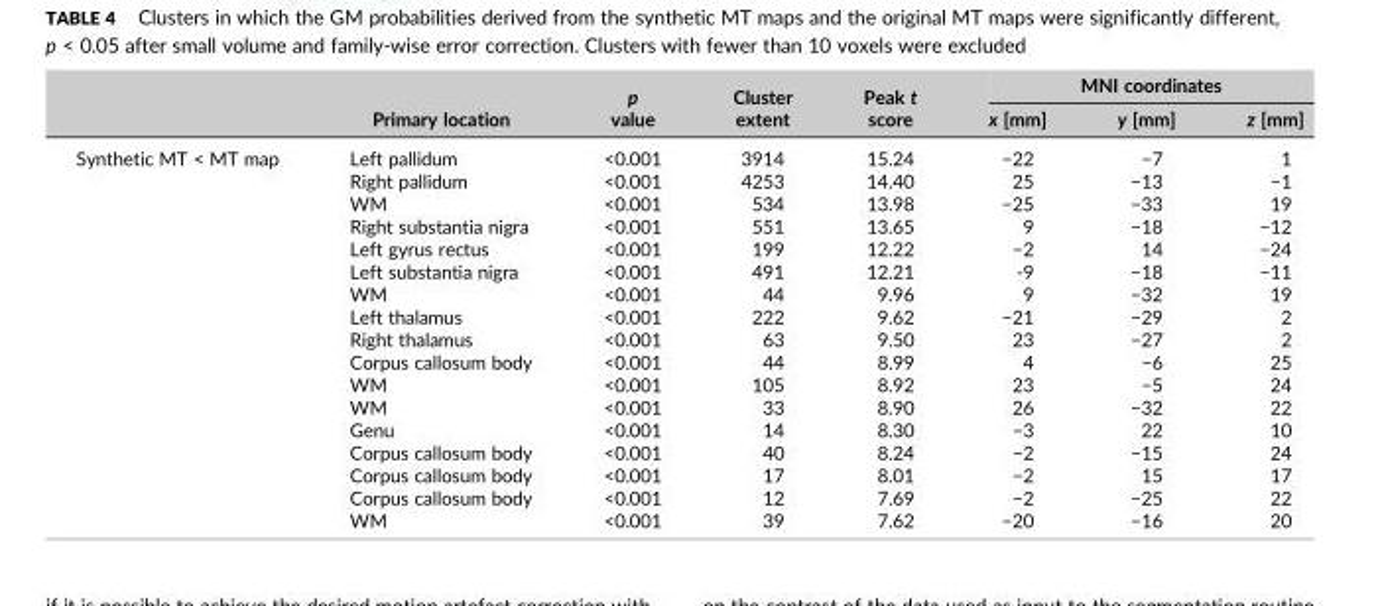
<table><thead><tr><td rowspan="2"></td><td rowspan="2">Primary location</td><td rowspan="2">p value</td><td rowspan="2">Cluster extent</td><td rowspan="2">Peak t score</td><td colspan="3">MNI coordinates</td></tr><tr><td>x [mm]</td><td>y [mm]</td><td>z [mm]</td></tr></thead><tbody><tr><td rowspan="17">Synthetic MT &lt; MT map</td><td>Left pallidum</td><td>&lt;0.001</td><td>3914</td><td>15.24</td><td>−22</td><td>−7</td><td>1</td></tr><tr><td>Right pallidum</td><td>&lt;0.001</td><td>4253</td><td>14.40</td><td>25</td><td>−13</td><td>−1</td></tr><tr><td>WM</td><td>&lt;0.001</td><td>534</td><td>13.98</td><td>−25</td><td>−33</td><td>19</td></tr><tr><td>Right substantia nigra</td><td>&lt;0.001</td><td>551</td><td>13.65</td><td>9</td><td>−18</td><td>−12</td></tr><tr><td>Left gyrus rectus</td><td>&lt;0.001</td><td>199</td><td>12.22</td><td>−2</td><td>14</td><td>−24</td></tr><tr><td>Left substantia nigra</td><td>&lt;0.001</td><td>491</td><td>12.21</td><td>‐9</td><td>−18</td><td>−11</td></tr><tr><td>WM</td><td>&lt;0.001</td><td>44</td><td>9.96</td><td>9</td><td>−32</td><td>19</td></tr><tr><td>Left thalamus</td><td>&lt;0.001</td><td>222</td><td>9.62</td><td>−21</td><td>−29</td><td>2</td></tr><tr><td>Right thalamus</td><td>&lt;0.001</td><td>63</td><td>9.50</td><td>23</td><td>−27</td><td>2</td></tr><tr><td>Corpus callosum body</td><td>&lt;0.001</td><td>44</td><td>8.99</td><td>4</td><td>−6</td><td>25</td></tr><tr><td>WM</td><td>&lt;0.001</td><td>105</td><td>8.92</td><td>23</td><td>−5</td><td>24</td></tr><tr><td>WM</td><td>&lt;0.001</td><td>33</td><td>8.90</td><td>26</td><td>−32</td><td>22</td></tr><tr><td>Genu</td><td>&lt;0.001</td><td>14</td><td>8.30</td><td>−3</td><td>22</td><td>10</td></tr><tr><td>Corpus callosum body</td><td>&lt;0.001</td><td>40</td><td>8.24</td><td>−2</td><td>−15</td><td>24</td></tr><tr><td>Corpus callosum body</td><td>&lt;0.001</td><td>17</td><td>8.01</td><td>−2</td><td>15</td><td>17</td></tr><tr><td>Corpus callosum body</td><td>&lt;0.001</td><td>12</td><td>7.69</td><td>−2</td><td>−25</td><td>22</td></tr><tr><td>WM</td><td>&lt;0.001</td><td>39</td><td>7.62</td><td>−20</td><td>−16</td><td>20</td></tr></tbody></table>